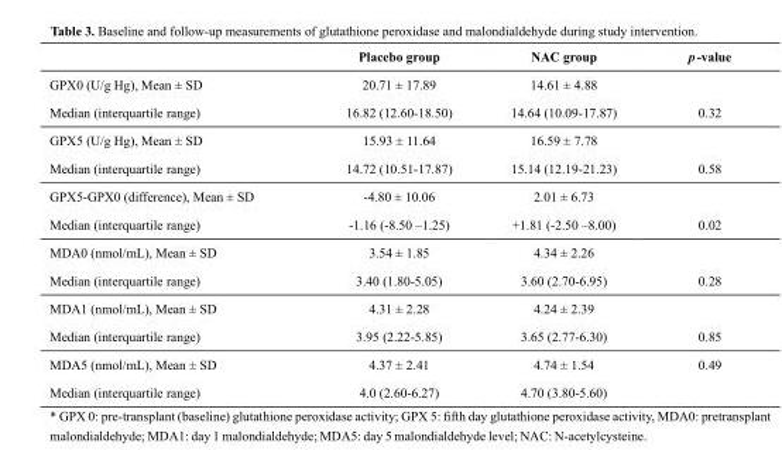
<table><thead><tr><td></td><td>Placebo group</td><td>NAC group</td><td>p-value</td></tr></thead><tbody><tr><td>GPX0 (U/g Hg), Mean ± SD Median (interquartile range)</td><td>20.71 ± 17.89 16.82 (12.60-18.50)</td><td>14.61 ± 4.88 14.64 (10.09-17.87)</td><td>0.32</td></tr><tr><td>GPX5 (U/g Hg), Mean ± SD Median (interquartile range)</td><td>15.93 ± 11.64 14.72 (10.51-17.87)</td><td>16.59 ± 7.78 15.14 (12.19-21.23)</td><td>0.58</td></tr><tr><td>GPX5-GPX0 (difference), Mean ± SD Median (interquartile range)</td><td>-4.80 ± 10.06 -1.16 (-8.50 –1.25)</td><td>2.01 ± 6.73 +1.81 (-2.50 –8.00)</td><td>0.02</td></tr><tr><td>MDA0 (nmol/mL), Mean ± SD Median (interquartile range)</td><td>3.54 ± 1.85 3.40 (1.80-5.05)</td><td>4.34 ± 2.26 3.60 (2.70-6.95)</td><td>0.28</td></tr><tr><td>MDA1 (nmol/mL), Mean ± SD Median (interquartile range)</td><td>4.31 ± 2.28 3.95 (2.22-5.85)</td><td>4.24 ± 2.39 3.65 (2.77-6.30)</td><td>0.85</td></tr><tr><td>MDA5 (nmol/mL), Mean ± SD Median (interquartile range)</td><td>4.37 ± 2.41 4.0 (2.60-6.27)</td><td>4.74 ± 1.54 4.70 (3.80-5.60)</td><td>0.49</td></tr></tbody></table>